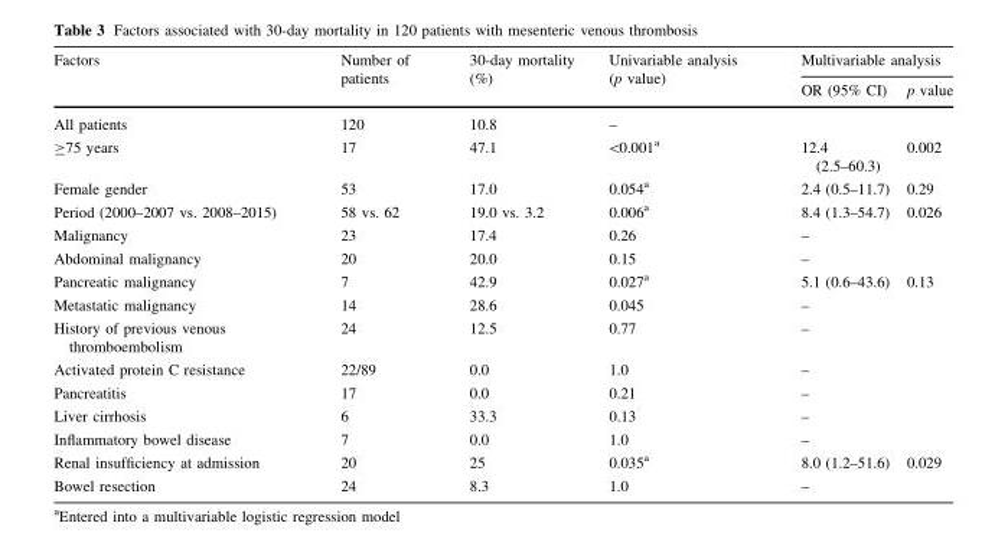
<table><thead><tr><td rowspan="2">Factors</td><td rowspan="2">Number of patients</td><td rowspan="2">30-day mortality (%)</td><td rowspan="2">Univariable analysis (p value)</td><td colspan="2">Multivariable analysis</td></tr><tr><td>OR (95% CI)</td><td>p value</td></tr></thead><tbody><tr><td>All patients</td><td>120</td><td>10.8</td><td>–</td><td></td><td></td></tr><tr><td>≥75 years</td><td>17</td><td>47.1</td><td>&lt;0.001<sup>a</sup></td><td>12.4 (2.5–60.3)</td><td>0.002</td></tr><tr><td>Female gender</td><td>53</td><td>17.0</td><td>0.054<sup>a</sup></td><td>2.4 (0.5–11.7)</td><td>0.29</td></tr><tr><td>Period (2000–2007 vs. 2008–2015)</td><td>58 vs. 62</td><td>19.0 vs. 3.2</td><td>0.006<sup>a</sup></td><td>8.4 (1.3–54.7)</td><td>0.026</td></tr><tr><td>Malignancy</td><td>23</td><td>17.4</td><td>0.26</td><td>–</td><td></td></tr><tr><td>Abdominal malignancy</td><td>20</td><td>20.0</td><td>0.15</td><td>–</td><td></td></tr><tr><td>Pancreatic malignancy</td><td>7</td><td>42.9</td><td>0.027<sup>a</sup></td><td>5.1 (0.6–43.6)</td><td>0.13</td></tr><tr><td>Metastatic malignancy</td><td>14</td><td>28.6</td><td>0.045</td><td>–</td><td></td></tr><tr><td>History of previous venous thromboembolism</td><td>24</td><td>12.5</td><td>0.77</td><td>–</td><td></td></tr><tr><td>Activated protein C resistance</td><td>22/89</td><td>0.0</td><td>1.0</td><td>–</td><td></td></tr><tr><td>Pancreatitis</td><td>17</td><td>0.0</td><td>0.21</td><td>–</td><td></td></tr><tr><td>Liver cirrhosis</td><td>6</td><td>33.3</td><td>0.13</td><td>–</td><td></td></tr><tr><td>Inflammatory bowel disease</td><td>7</td><td>0.0</td><td>1.0</td><td>–</td><td></td></tr><tr><td>Renal insufficiency at admission</td><td>20</td><td>25</td><td>0.035<sup>a</sup></td><td>8.0 (1.2–51.6)</td><td>0.029</td></tr><tr><td>Bowel resection</td><td>24</td><td>8.3</td><td>1.0</td><td>–</td><td></td></tr></tbody></table>